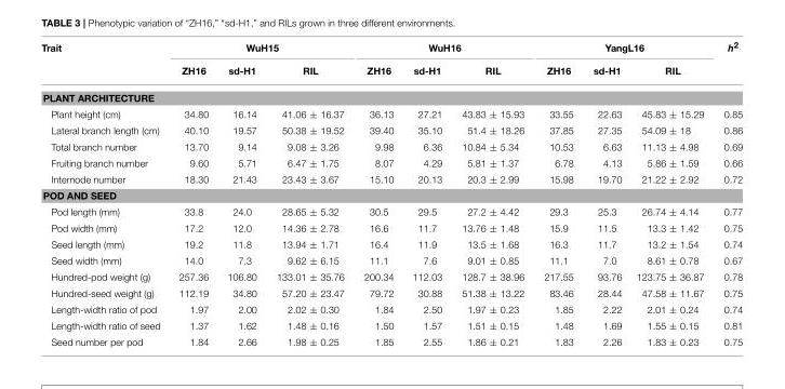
<table><thead><tr><td rowspan="2">Trait</td><td colspan="3">WuH15</td><td colspan="3">WuH16</td><td colspan="3">YangL16</td><td rowspan="2">h<sup>2</sup></td></tr><tr><td>ZH16</td><td>sd-H1</td><td>RIL</td><td>ZH16</td><td>sd-H1</td><td>RIL</td><td>ZH16</td><td>sd-H1</td><td>RIL</td></tr></thead><tbody><tr><td colspan="11">PLANT ARCHITECTURE</td></tr><tr><td>Plant height (cm)</td><td>34.80</td><td>16.14</td><td>41.06 ± 16.37</td><td>36.13</td><td>27.21</td><td>43.83 ± 15.93</td><td>33.55</td><td>22.63</td><td>45.83 ± 15.29</td><td>0.85</td></tr><tr><td>Lateral branch length (cm)</td><td>40.10</td><td>19.57</td><td>50.38 ± 19.52</td><td>39.40</td><td>35.10</td><td>51.4 ± 18.26</td><td>37.85</td><td>27.35</td><td>54.09 ± 18</td><td>0.86</td></tr><tr><td>Total branch number</td><td>13.70</td><td>9.14</td><td>9.08 ± 3.26</td><td>9.98</td><td>6.36</td><td>10.84 ± 5.34</td><td>10.53</td><td>6.63</td><td>11.13 ± 4.98</td><td>0.69</td></tr><tr><td>Fruiting branch number</td><td>9.60</td><td>5.71</td><td>6.47 ± 1.75</td><td>8.07</td><td>4.29</td><td>5.81 ± 1.37</td><td>6.78</td><td>4.13</td><td>5.86 ± 1.59</td><td>0.66</td></tr><tr><td>Internode number</td><td>18.30</td><td>21.43</td><td>23.43 ± 3.67</td><td>15.10</td><td>20.13</td><td>20.3 ± 2.99</td><td>15.98</td><td>19.70</td><td>21.22 ± 2.92</td><td>0.72</td></tr><tr><td colspan="11">POD AND SEED</td></tr><tr><td>Pod length (mm)</td><td>33.8</td><td>24.0</td><td>28.65 ± 5.32</td><td>30.5</td><td>29.5</td><td>27.2 ± 4.42</td><td>29.3</td><td>25.3</td><td>26.74 ± 4.14</td><td>0.77</td></tr><tr><td>Pod width (mm)</td><td>17.2</td><td>12.0</td><td>14.36 ± 2.78</td><td>16.6</td><td>11.7</td><td>13.76 ± 1.48</td><td>15.9</td><td>11.5</td><td>13.3 ± 1.42</td><td>0.75</td></tr><tr><td>Seed length (mm)</td><td>19.2</td><td>11.8</td><td>13.94 ± 1.71</td><td>16.4</td><td>11.9</td><td>13.5 ± 1.68</td><td>16.3</td><td>11.7</td><td>13.2 ± 1.54</td><td>0.74</td></tr><tr><td>Seed width (mm)</td><td>14.0</td><td>7.3</td><td>9.62 ± 6.15</td><td>11.1</td><td>7.6</td><td>9.01 ± 0.85</td><td>11.1</td><td>7.0</td><td>8.61 ± 0.78</td><td>0.67</td></tr><tr><td>Hundred-pod weight (g)</td><td>257.36</td><td>106.80</td><td>133.01 ± 35.76</td><td>200.34</td><td>112.03</td><td>128.7 ± 38.96</td><td>217.55</td><td>93.76</td><td>123.75 ± 36.87</td><td>0.78</td></tr><tr><td>Hundred-seed weight (g)</td><td>112.19</td><td>34.80</td><td>57.20 ± 23.47</td><td>79.72</td><td>30.88</td><td>51.38 ± 13.22</td><td>83.46</td><td>28.44</td><td>47.58 ± 11.67</td><td>0.75</td></tr><tr><td>Length-width ratio of pod</td><td>1.97</td><td>2.00</td><td>2.02 ± 0.30</td><td>1.84</td><td>2.50</td><td>1.97 ± 0.23</td><td>1.85</td><td>2.22</td><td>2.01 ± 0.24</td><td>0.74</td></tr><tr><td>Length-width ratio of seed</td><td>1.37</td><td>1.62</td><td>1.48 ± 0.16</td><td>1.50</td><td>1.57</td><td>1.51 ± 0.15</td><td>1.48</td><td>1.69</td><td>1.55 ± 0.15</td><td>0.81</td></tr><tr><td>Seed number per pod</td><td>1.84</td><td>2.66</td><td>1.98 ± 0.25</td><td>1.85</td><td>2.55</td><td>1.86 ± 0.21</td><td>1.83</td><td>2.26</td><td>1.83 ± 0.23</td><td>0.75</td></tr></tbody></table>